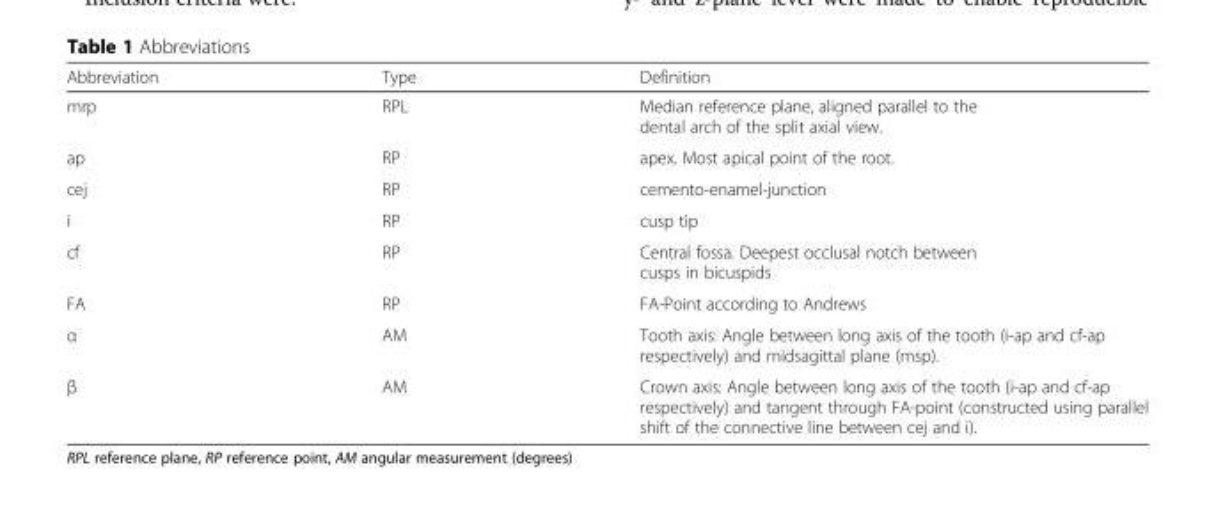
<table><thead><tr><td>Abbreviation</td><td>Type</td><td>Definition</td></tr></thead><tbody><tr><td>mrp</td><td>RPL</td><td>Median reference plane, aligned parallel to the dental arch of the split axial view.</td></tr><tr><td>ap</td><td>RP</td><td>apex. Most apical point of the root.</td></tr><tr><td>cej</td><td>RP</td><td>cemento-enamel-junction</td></tr><tr><td>i</td><td>RP</td><td>cusp tip</td></tr><tr><td>cf</td><td>RP</td><td>Central fossa. Deepest occlusal notch between cusps in bicuspids</td></tr><tr><td>FA</td><td>RP</td><td>FA-Point according to Andrews</td></tr><tr><td>α</td><td>AM</td><td>Tooth axis: Angle between long axis of the tooth (i-ap and cf-ap respectively) and midsagittal plane (msp).</td></tr><tr><td>β</td><td>AM</td><td>Crown axis: Angle between long axis of the tooth (i-ap and cf-ap respectively) and tangent through FA-point (constructed using parallel shift of the connective line between cej and i).</td></tr></tbody></table>